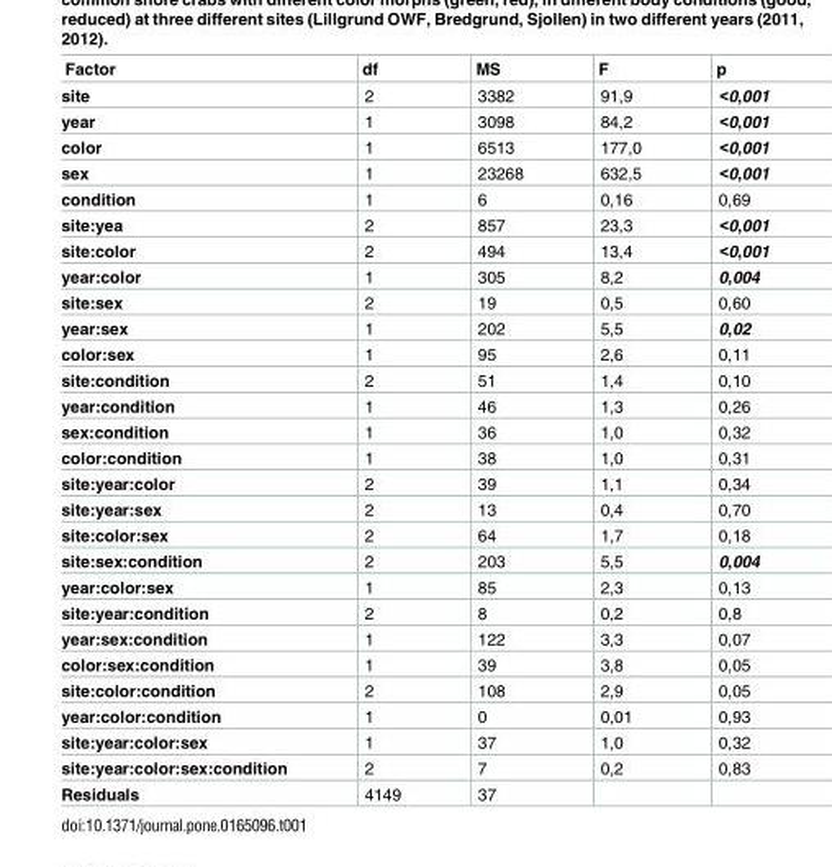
<table><thead><tr><td>Factor</td><td>df</td><td>MS</td><td>F</td><td>p</td></tr></thead><tbody><tr><td>site</td><td>2</td><td>3382</td><td>91,9</td><td>&lt;0,001</td></tr><tr><td>year</td><td>1</td><td>3098</td><td>84,2</td><td>&lt;0,001</td></tr><tr><td>color</td><td>1</td><td>6513</td><td>177,0</td><td>&lt;0,001</td></tr><tr><td>sex</td><td>1</td><td>23268</td><td>632,5</td><td>&lt;0,001</td></tr><tr><td>condition</td><td>1</td><td>6</td><td>0,16</td><td>0,69</td></tr><tr><td>site:yea</td><td>2</td><td>857</td><td>23,3</td><td>&lt;0,001</td></tr><tr><td>site:color</td><td>2</td><td>494</td><td>13,4</td><td>&lt;0,001</td></tr><tr><td>year:color</td><td>1</td><td>305</td><td>8,2</td><td>0,004</td></tr><tr><td>site:sex</td><td>2</td><td>19</td><td>0,5</td><td>0,60</td></tr><tr><td>year:sex</td><td>1</td><td>202</td><td>5,5</td><td>0,02</td></tr><tr><td>color:sex</td><td>1</td><td>95</td><td>2,6</td><td>0,11</td></tr><tr><td>site:condition</td><td>2</td><td>51</td><td>1,4</td><td>0,10</td></tr><tr><td>year:condition</td><td>1</td><td>46</td><td>1,3</td><td>0,26</td></tr><tr><td>sex:condition</td><td>1</td><td>36</td><td>1,0</td><td>0,32</td></tr><tr><td>color:condition</td><td>1</td><td>38</td><td>1,0</td><td>0,31</td></tr><tr><td>site:year:color</td><td>2</td><td>39</td><td>1,1</td><td>0,34</td></tr><tr><td>site:year:sex</td><td>2</td><td>13</td><td>0,4</td><td>0,70</td></tr><tr><td>site:color:sex</td><td>2</td><td>64</td><td>1,7</td><td>0,18</td></tr><tr><td>site:sex:condition</td><td>2</td><td>203</td><td>5,5</td><td>0,004</td></tr><tr><td>year:color:sex</td><td>1</td><td>85</td><td>2,3</td><td>0,13</td></tr><tr><td>site:year:condition</td><td>2</td><td>8</td><td>0,2</td><td>0,8</td></tr><tr><td>year:sex:condition</td><td>1</td><td>122</td><td>3,3</td><td>0,07</td></tr><tr><td>color:sex:condition</td><td>1</td><td>39</td><td>3,8</td><td>0,05</td></tr><tr><td>site:color:condition</td><td>2</td><td>108</td><td>2,9</td><td>0,05</td></tr><tr><td>year:color:condition</td><td>1</td><td>0</td><td>0,01</td><td>0,93</td></tr><tr><td>site:year:color:sex</td><td>1</td><td>37</td><td>1,0</td><td>0,32</td></tr><tr><td>site:year:color:sex:condition</td><td>2</td><td>7</td><td>0,2</td><td>0,83</td></tr><tr><td>Residuals</td><td>4149</td><td>37</td><td></td><td></td></tr></tbody></table>